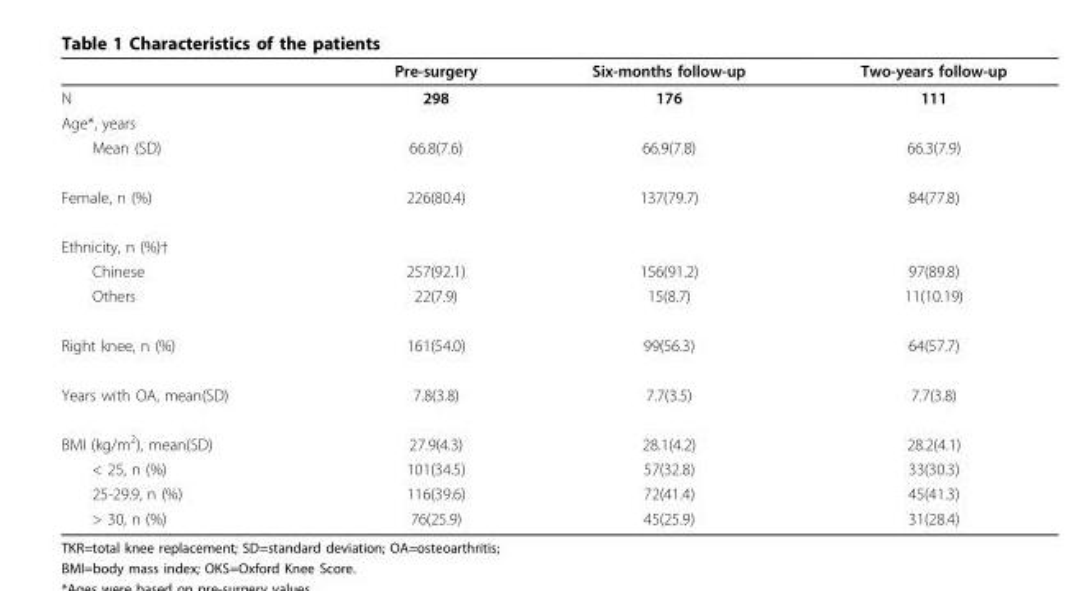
<table><thead><tr><td></td><td>Pre-surgery</td><td>Six-months follow-up</td><td>Two-years follow-up</td></tr></thead><tbody><tr><td>N</td><td>298</td><td>176</td><td>111</td></tr><tr><td colspan="4">Age*, years</td></tr><tr><td>Mean (SD)</td><td>66.8(7.6)</td><td>66.9(7.8)</td><td>66.3(7.9)</td></tr><tr><td>Female, n (%)</td><td>226(80.4)</td><td>137(79.7)</td><td>84(77.8)</td></tr><tr><td colspan="4">Ethnicity, n (%)†</td></tr><tr><td>Chinese</td><td>257(92.1)</td><td>156(91.2)</td><td>97(89.8)</td></tr><tr><td>Others</td><td>22(7.9)</td><td>15(8.7)</td><td>11(10.19)</td></tr><tr><td>Right knee, n (%)</td><td>161(54.0)</td><td>99(56.3)</td><td>64(57.7)</td></tr><tr><td>Years with OA, mean(SD)</td><td>7.8(3.8)</td><td>7.7(3.5)</td><td>7.7(3.8)</td></tr><tr><td>BMI (kg/m<sup>2</sup>), mean(SD)</td><td>27.9(4.3)</td><td>28.1(4.2)</td><td>28.2(4.1)</td></tr><tr><td>&lt; 25, n (%)</td><td>101(34.5)</td><td>57(32.8)</td><td>33(30.3)</td></tr><tr><td>25-29.9, n (%)</td><td>116(39.6)</td><td>72(41.4)</td><td>45(41.3)</td></tr><tr><td>&gt; 30, n (%)</td><td>76(25.9)</td><td>45(25.9)</td><td>31(28.4)</td></tr></tbody></table>